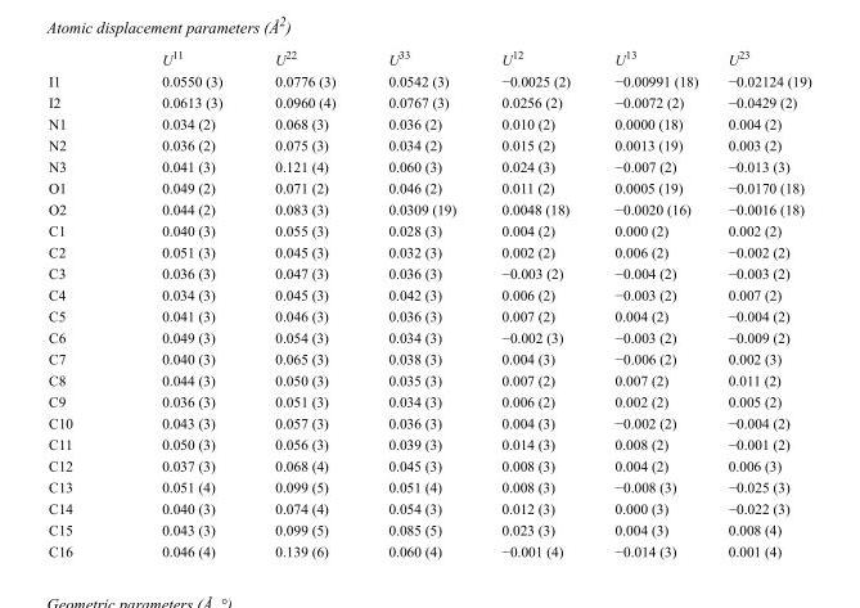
<table><thead><tr><td></td><td>U<sup>11</sup></td><td>U<sup>22</sup></td><td>U<sup>33</sup></td><td>U<sup>12</sup></td><td>U<sup>13</sup></td><td>U<sup>23</sup></td></tr></thead><tbody><tr><td>I1</td><td>0.0550 (3)</td><td>0.0776 (3)</td><td>0.0542 (3)</td><td>−0.0025 (2)</td><td>−0.00991 (18)</td><td>−0.02124 (19)</td></tr><tr><td>I2</td><td>0.0613 (3)</td><td>0.0960 (4)</td><td>0.0767 (3)</td><td>0.0256 (2)</td><td>−0.0072 (2)</td><td>−0.0429 (2)</td></tr><tr><td>N1</td><td>0.034 (2)</td><td>0.068 (3)</td><td>0.036 (2)</td><td>0.010 (2)</td><td>0.0000 (18)</td><td>0.004 (2)</td></tr><tr><td>N2</td><td>0.036 (2)</td><td>0.075 (3)</td><td>0.034 (2)</td><td>0.015 (2)</td><td>0.0013 (19)</td><td>0.003 (2)</td></tr><tr><td>N3</td><td>0.041 (3)</td><td>0.121 (4)</td><td>0.060 (3)</td><td>0.024 (3)</td><td>−0.007 (2)</td><td>−0.013 (3)</td></tr><tr><td>O1</td><td>0.049 (2)</td><td>0.071 (2)</td><td>0.046 (2)</td><td>0.011 (2)</td><td>0.0005 (19)</td><td>−0.0170 (18)</td></tr><tr><td>O2</td><td>0.044 (2)</td><td>0.083 (3)</td><td>0.0309 (19)</td><td>0.0048 (18)</td><td>−0.0020 (16)</td><td>−0.0016 (18)</td></tr><tr><td>C1</td><td>0.040 (3)</td><td>0.055 (3)</td><td>0.028 (3)</td><td>0.004 (2)</td><td>0.000 (2)</td><td>0.002 (2)</td></tr><tr><td>C2</td><td>0.051 (3)</td><td>0.045 (3)</td><td>0.032 (3)</td><td>0.002 (2)</td><td>0.006 (2)</td><td>−0.002 (2)</td></tr><tr><td>C3</td><td>0.036 (3)</td><td>0.047 (3)</td><td>0.036 (3)</td><td>−0.003 (2)</td><td>−0.004 (2)</td><td>−0.003 (2)</td></tr><tr><td>C4</td><td>0.034 (3)</td><td>0.045 (3)</td><td>0.042 (3)</td><td>0.006 (2)</td><td>−0.003 (2)</td><td>0.007 (2)</td></tr><tr><td>C5</td><td>0.041 (3)</td><td>0.046 (3)</td><td>0.036 (3)</td><td>0.007 (2)</td><td>0.004 (2)</td><td>−0.004 (2)</td></tr><tr><td>C6</td><td>0.049 (3)</td><td>0.054 (3)</td><td>0.034 (3)</td><td>−0.002 (3)</td><td>−0.003 (2)</td><td>−0.009 (2)</td></tr><tr><td>C7</td><td>0.040 (3)</td><td>0.065 (3)</td><td>0.038 (3)</td><td>0.004 (3)</td><td>−0.006 (2)</td><td>0.002 (3)</td></tr><tr><td>C8</td><td>0.044 (3)</td><td>0.050 (3)</td><td>0.035 (3)</td><td>0.007 (2)</td><td>0.007 (2)</td><td>0.011 (2)</td></tr><tr><td>C9</td><td>0.036 (3)</td><td>0.051 (3)</td><td>0.034 (3)</td><td>0.006 (2)</td><td>0.002 (2)</td><td>0.005 (2)</td></tr><tr><td>C10</td><td>0.043 (3)</td><td>0.057 (3)</td><td>0.036 (3)</td><td>0.004 (3)</td><td>−0.002 (2)</td><td>−0.004 (2)</td></tr><tr><td>C11</td><td>0.050 (3)</td><td>0.056 (3)</td><td>0.039 (3)</td><td>0.014 (3)</td><td>0.008 (2)</td><td>−0.001 (2)</td></tr><tr><td>C12</td><td>0.037 (3)</td><td>0.068 (4)</td><td>0.045 (3)</td><td>0.008 (3)</td><td>0.004 (2)</td><td>0.006 (3)</td></tr><tr><td>C13</td><td>0.051 (4)</td><td>0.099 (5)</td><td>0.051 (4)</td><td>0.008 (3)</td><td>−0.008 (3)</td><td>−0.025 (3)</td></tr><tr><td>C14</td><td>0.040 (3)</td><td>0.074 (4)</td><td>0.054 (3)</td><td>0.012 (3)</td><td>0.000 (3)</td><td>−0.022 (3)</td></tr><tr><td>C15</td><td>0.043 (3)</td><td>0.099 (5)</td><td>0.085 (5)</td><td>0.023 (3)</td><td>0.004 (3)</td><td>0.008 (4)</td></tr><tr><td>C16</td><td>0.046 (4)</td><td>0.139 (6)</td><td>0.060 (4)</td><td>−0.001 (4)</td><td>−0.014 (3)</td><td>0.001 (4)</td></tr></tbody></table>